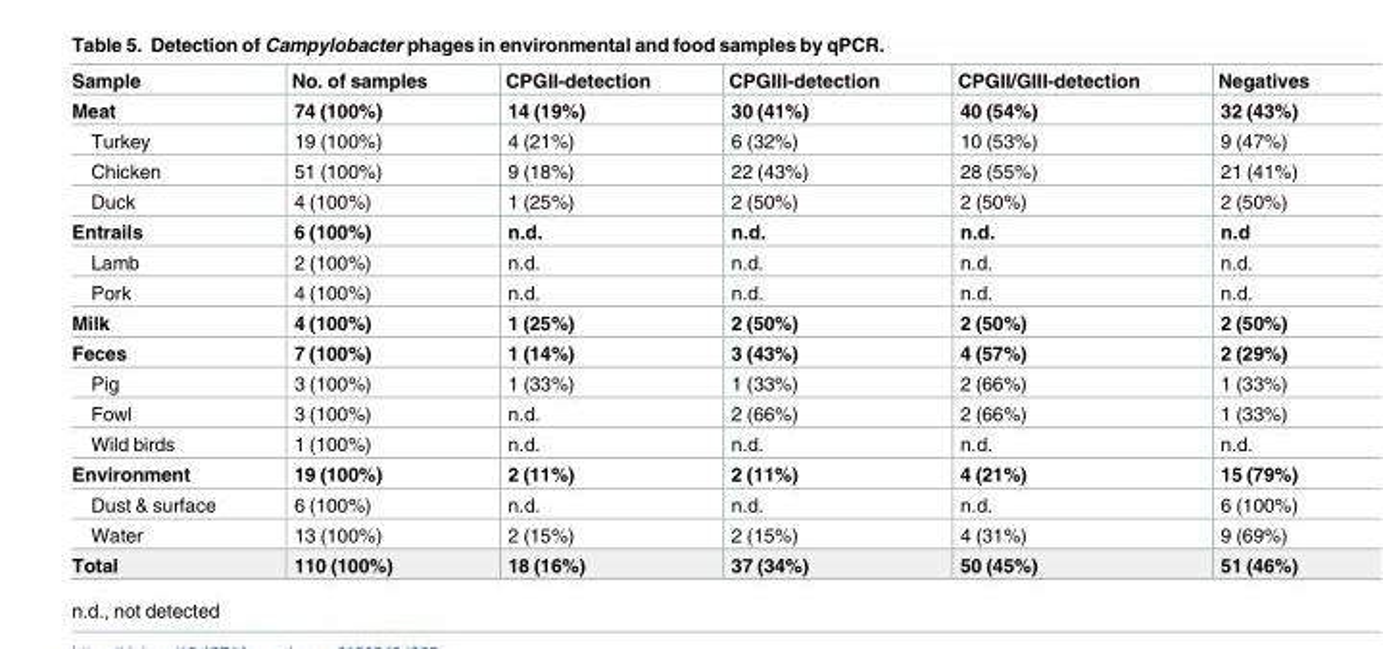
<table><thead><tr><td>Sample</td><td>No. of samples</td><td>CPGII-detection</td><td>CPGIII-detection</td><td>CPGII/GIII-detection</td><td>Negatives</td></tr></thead><tbody><tr><td>Meat</td><td>74 (100%)</td><td>14 (19%)</td><td>30 (41%)</td><td>40 (54%)</td><td>32 (43%)</td></tr><tr><td>Turkey</td><td>19 (100%)</td><td>4 (21%)</td><td>6 (32%)</td><td>10 (53%)</td><td>9 (47%)</td></tr><tr><td>Chicken</td><td>51 (100%)</td><td>9 (18%)</td><td>22 (43%)</td><td>28 (55%)</td><td>21 (41%)</td></tr><tr><td>Duck</td><td>4 (100%)</td><td>1 (25%)</td><td>2 (50%)</td><td>2 (50%)</td><td>2 (50%)</td></tr><tr><td>Entrails</td><td>6 (100%)</td><td>n.d.</td><td>n.d.</td><td>n.d.</td><td>n.d</td></tr><tr><td>Lamb</td><td>2 (100%)</td><td>n.d.</td><td>n.d.</td><td>n.d.</td><td>n.d.</td></tr><tr><td>Pork</td><td>4 (100%)</td><td>n.d.</td><td>n.d.</td><td>n.d.</td><td>n.d.</td></tr><tr><td>Milk</td><td>4 (100%)</td><td>1 (25%)</td><td>2 (50%)</td><td>2 (50%)</td><td>2 (50%)</td></tr><tr><td>Feces</td><td>7 (100%)</td><td>1 (14%)</td><td>3 (43%)</td><td>4 (57%)</td><td>2 (29%)</td></tr><tr><td>Pig</td><td>3 (100%)</td><td>1 (33%)</td><td>1 (33%)</td><td>2 (66%)</td><td>1 (33%)</td></tr><tr><td>Fowl</td><td>3 (100%)</td><td>n.d.</td><td>2 (66%)</td><td>2 (66%)</td><td>1 (33%)</td></tr><tr><td>Wild birds</td><td>1 (100%)</td><td>n.d.</td><td>n.d.</td><td>n.d.</td><td>n.d.</td></tr><tr><td>Environment</td><td>19 (100%)</td><td>2 (11%)</td><td>2 (11%)</td><td>4 (21%)</td><td>15 (79%)</td></tr><tr><td>Dust &amp; surface</td><td>6 (100%)</td><td>n.d.</td><td>n.d.</td><td>n.d.</td><td>6 (100%)</td></tr><tr><td>Water</td><td>13 (100%)</td><td>2 (15%)</td><td>2 (15%)</td><td>4 (31%)</td><td>9 (69%)</td></tr><tr><td>Total</td><td>110 (100%)</td><td>18 (16%)</td><td>37 (34%)</td><td>50 (45%)</td><td>51 (46%)</td></tr></tbody></table>